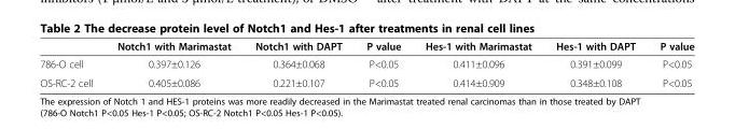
<table><thead><tr><td></td><td>Notch1 with Marimastat</td><td>Notch1 with DAPT</td><td>P value</td><td>Hes-1 with Marimastat</td><td>Hes-1 with DAPT</td><td>P value</td></tr></thead><tbody><tr><td>786-O cell</td><td>0.397±0.126</td><td>0.364±0.068</td><td>P&lt;0.05</td><td>0.411±0.096</td><td>0.391±0.099</td><td>P&lt;0.05</td></tr><tr><td>OS-RC-2 cell</td><td>0.405±0.086</td><td>0.221±0.107</td><td>P&lt;0.05</td><td>0.414±0.909</td><td>0.348±0.108</td><td>P&lt;0.05</td></tr></tbody></table>